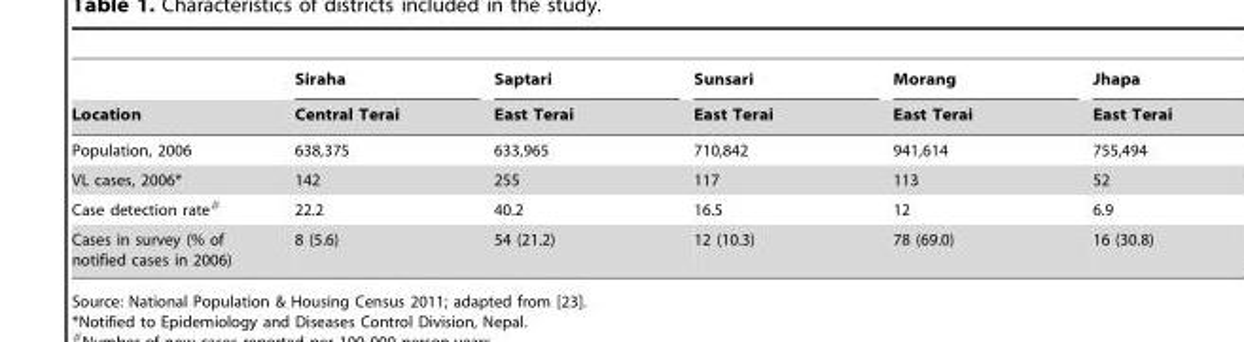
<table><thead><tr><td rowspan="2">Location</td><td rowspan="2">Siraha Central Terai</td><td rowspan="2">Saptari East Terai</td><td rowspan="2">Sunsari East Terai</td><td rowspan="2">Morang East Terai</td><td rowspan="2">Jhapa East Terai</td></tr><tr></tr></thead><tbody><tr><td>Population, 2006</td><td>638,375</td><td>633,965</td><td>710,842</td><td>941,614</td><td>755,494</td></tr><tr><td>VL cases, 2006*</td><td>142</td><td>255</td><td>117</td><td>113</td><td>52</td></tr><tr><td>Case detection rate#</td><td>22.2</td><td>40.2</td><td>16.5</td><td>12</td><td>6.9</td></tr><tr><td>Cases in survey (% of notified cases in 2006)</td><td>8 (5.6)</td><td>54 (21.2)</td><td>12 (10.3)</td><td>78 (69.0)</td><td>16 (30.8)</td></tr></tbody></table>